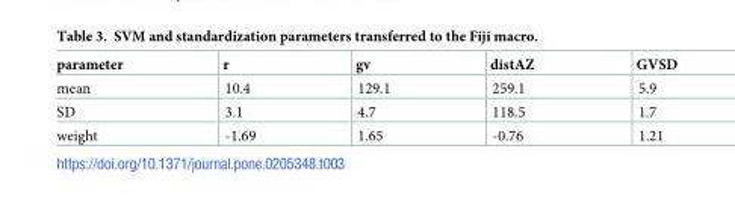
<table><thead><tr><td>parameter</td><td>r</td><td>gv</td><td>distAZ</td><td>GVSD</td></tr></thead><tbody><tr><td>mean</td><td>10.4</td><td>129.1</td><td>259.1</td><td>5.9</td></tr><tr><td>SD</td><td>3.1</td><td>4.7</td><td>118.5</td><td>1.7</td></tr><tr><td>weight</td><td>-1.69</td><td>1.65</td><td>-0.76</td><td>1.21</td></tr></tbody></table>